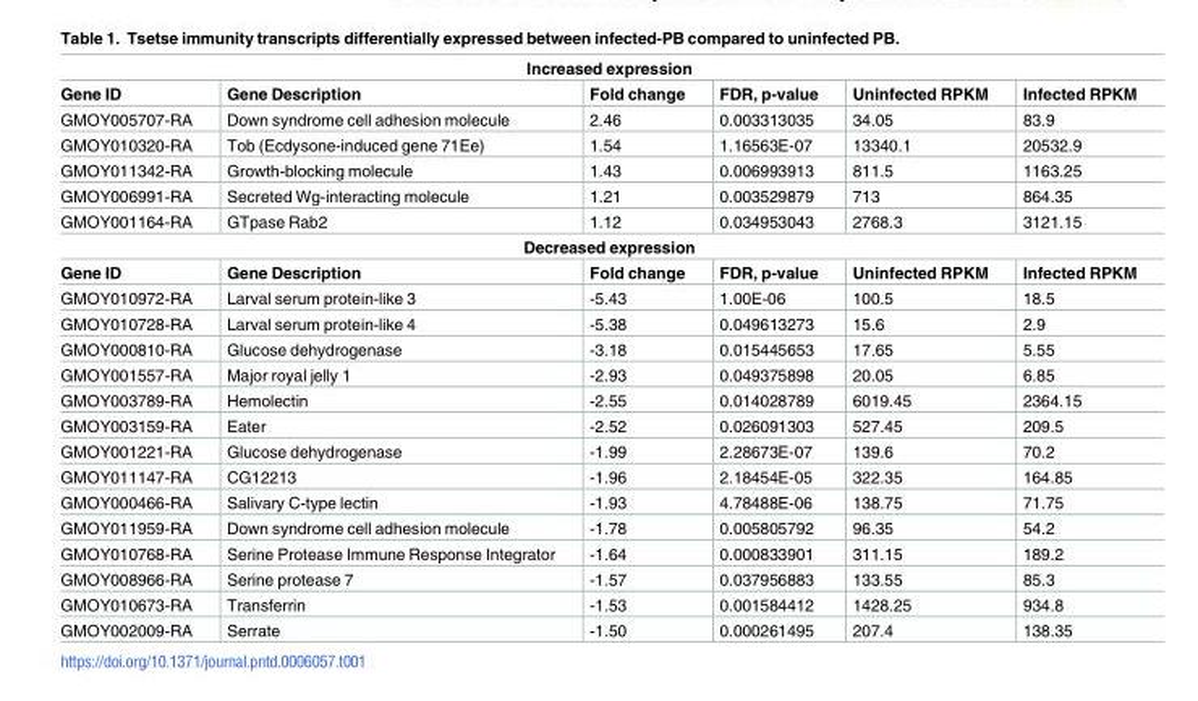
<table><tbody><tr><td colspan="6">Increased expression</td></tr><tr><td>Gene ID</td><td>Gene Description</td><td>Fold change</td><td>FDR, p-value</td><td>Uninfected RPKM</td><td>Infected RPKM</td></tr><tr><td>GMOY005707-RA</td><td>Down syndrome cell adhesion molecule</td><td>2.46</td><td>0.003313035</td><td>34.05</td><td>83.9</td></tr><tr><td>GMOY010320-RA</td><td>Tob (Ecdysone-induced gene 71Ee)</td><td>1.54</td><td>1.16563E-07</td><td>13340.1</td><td>20532.9</td></tr><tr><td>GMOY011342-RA</td><td>Growth-blocking molecule</td><td>1.43</td><td>0.006993913</td><td>811.5</td><td>1163.25</td></tr><tr><td>GMOY006991-RA</td><td>Secreted Wg-interacting molecule</td><td>1.21</td><td>0.003529879</td><td>713</td><td>864.35</td></tr><tr><td>GMOY001164-RA</td><td>GTpase Rab2</td><td>1.12</td><td>0.034953043</td><td>2768.3</td><td>3121.15</td></tr><tr><td colspan="6">Decreased expression</td></tr><tr><td>Gene ID</td><td>Gene Description</td><td>Fold change</td><td>FDR, p-value</td><td>Uninfected RPKM</td><td>Infected RPKM</td></tr><tr><td>GMOY010972-RA</td><td>Larval serum protein-like 3</td><td>-5.43</td><td>1.00E-06</td><td>100.5</td><td>18.5</td></tr><tr><td>GMOY010728-RA</td><td>Larval serum protein-like 4</td><td>-5.38</td><td>0.049613273</td><td>15.6</td><td>2.9</td></tr><tr><td>GMOY000810-RA</td><td>Glucose dehydrogenase</td><td>-3.18</td><td>0.015445653</td><td>17.65</td><td>5.55</td></tr><tr><td>GMOY001557-RA</td><td>Major royal jelly 1</td><td>-2.93</td><td>0.049375898</td><td>20.05</td><td>6.85</td></tr><tr><td>GMOY003789-RA</td><td>Hemolectin</td><td>-2.55</td><td>0.014028789</td><td>6019.45</td><td>2364.15</td></tr><tr><td>GMOY003159-RA</td><td>Eater</td><td>-2.52</td><td>0.026091303</td><td>527.45</td><td>209.5</td></tr><tr><td>GMOY001221-RA</td><td>Glucose dehydrogenase</td><td>-1.99</td><td>2.28673E-07</td><td>139.6</td><td>70.2</td></tr><tr><td>GMOY011147-RA</td><td>CG12213</td><td>-1.96</td><td>2.18454E-05</td><td>322.35</td><td>164.85</td></tr><tr><td>GMOY000466-RA</td><td>Salivary C-type lectin</td><td>-1.93</td><td>4.78488E-06</td><td>138.75</td><td>71.75</td></tr><tr><td>GMOY011959-RA</td><td>Down syndrome cell adhesion molecule</td><td>-1.78</td><td>0.005805792</td><td>96.35</td><td>54.2</td></tr><tr><td>GMOY010768-RA</td><td>Serine Protease Immune Response Integrator</td><td>-1.64</td><td>0.000833901</td><td>311.15</td><td>189.2</td></tr><tr><td>GMOY008966-RA</td><td>Serine protease 7</td><td>-1.57</td><td>0.037956883</td><td>133.55</td><td>85.3</td></tr><tr><td>GMOY010673-RA</td><td>Transferrin</td><td>-1.53</td><td>0.001584412</td><td>1428.25</td><td>934.8</td></tr><tr><td>GMOY002009-RA</td><td>Serrate</td><td>-1.50</td><td>0.000261495</td><td>207.4</td><td>138.35</td></tr></tbody></table>